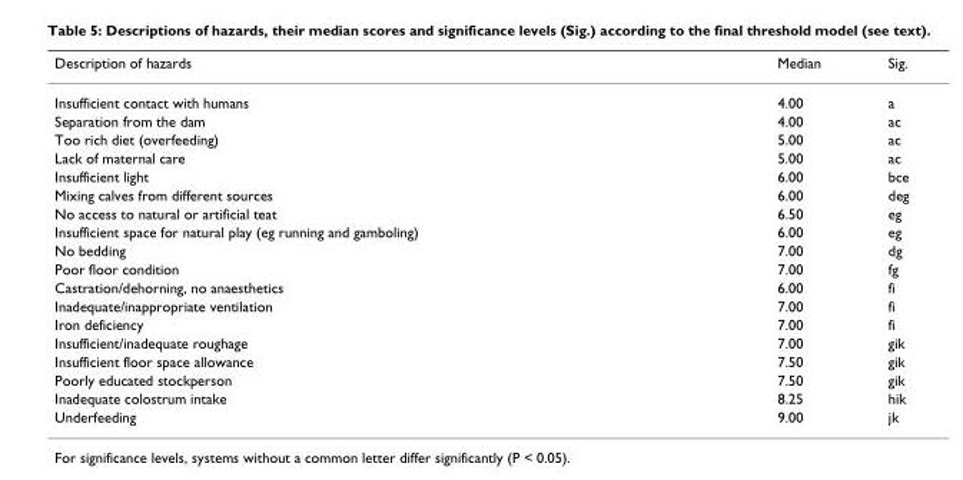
<table><thead><tr><td>Description of hazards</td><td>Median</td><td>Sig.</td></tr></thead><tbody><tr><td>Insufficient contact with humans</td><td>4.00</td><td>a</td></tr><tr><td>Separation from the dam</td><td>4.00</td><td>ac</td></tr><tr><td>Too rich diet (overfeeding)</td><td>5.00</td><td>ac</td></tr><tr><td>Lack of maternal care</td><td>5.00</td><td>ac</td></tr><tr><td>Insufficient light</td><td>6.00</td><td>bce</td></tr><tr><td>Mixing calves from different sources</td><td>6.00</td><td>deg</td></tr><tr><td>No access to natural or artificial teat</td><td>6.50</td><td>eg</td></tr><tr><td>Insufficient space for natural play (eg running and gamboling)</td><td>6.00</td><td>eg</td></tr><tr><td>No bedding</td><td>7.00</td><td>dg</td></tr><tr><td>Poor floor condition</td><td>7.00</td><td>fg</td></tr><tr><td>Castration/dehorning, no anaesthetics</td><td>6.00</td><td>fi</td></tr><tr><td>Inadequate/inappropriate ventilation</td><td>7.00</td><td>fi</td></tr><tr><td>Iron deficiency</td><td>7.00</td><td>fi</td></tr><tr><td>Insufficient/inadequate roughage</td><td>7.00</td><td>gik</td></tr><tr><td>Insufficient floor space allowance</td><td>7.50</td><td>gik</td></tr><tr><td>Poorly educated stockperson</td><td>7.50</td><td>gik</td></tr><tr><td>Inadequate colostrum intake</td><td>8.25</td><td>hik</td></tr><tr><td>Underfeeding</td><td>9.00</td><td>jk</td></tr></tbody></table>